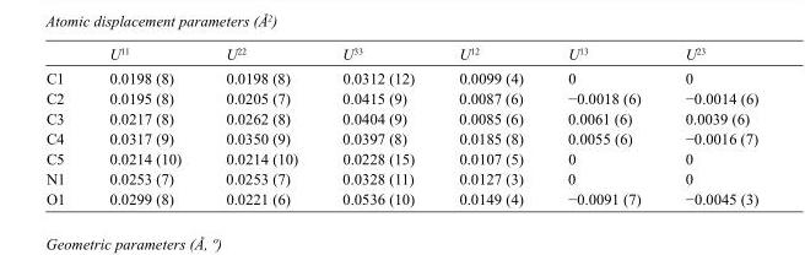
<table><thead><tr><td></td><td>U<sup>11</sup></td><td>U<sup>22</sup></td><td>U<sup>33</sup></td><td>U<sup>12</sup></td><td>U<sup>13</sup></td><td>U<sup>23</sup></td></tr></thead><tbody><tr><td>C1</td><td>0.0198 (8)</td><td>0.0198 (8)</td><td>0.0312 (12)</td><td>0.0099 (4)</td><td>0</td><td>0</td></tr><tr><td>C2</td><td>0.0195 (8)</td><td>0.0205 (7)</td><td>0.0415 (9)</td><td>0.0087 (6)</td><td>−0.0018 (6)</td><td>−0.0014 (6)</td></tr><tr><td>C3</td><td>0.0217 (8)</td><td>0.0262 (8)</td><td>0.0404 (9)</td><td>0.0085 (6)</td><td>0.0061 (6)</td><td>0.0039 (6)</td></tr><tr><td>C4</td><td>0.0317 (9)</td><td>0.0350 (9)</td><td>0.0397 (8)</td><td>0.0185 (8)</td><td>0.0055 (6)</td><td>−0.0016 (7)</td></tr><tr><td>C5</td><td>0.0214 (10)</td><td>0.0214 (10)</td><td>0.0228 (15)</td><td>0.0107 (5)</td><td>0</td><td>0</td></tr><tr><td>N1</td><td>0.0253 (7)</td><td>0.0253 (7)</td><td>0.0328 (11)</td><td>0.0127 (3)</td><td>0</td><td>0</td></tr><tr><td>O1</td><td>0.0299 (8)</td><td>0.0221 (6)</td><td>0.0536 (10)</td><td>0.0149 (4)</td><td>−0.0091 (7)</td><td>−0.0045 (3)</td></tr></tbody></table>